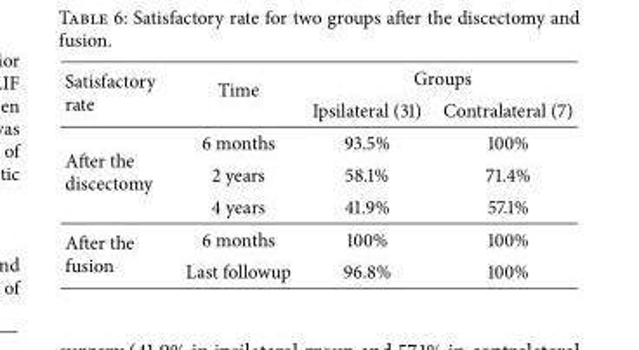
<table><thead><tr><td rowspan="2">Satisfactory rate</td><td rowspan="2">Time</td><td colspan="2">Groups</td></tr><tr><td>Ipsilateral (31)</td><td>Contralateral (7)</td></tr></thead><tbody><tr><td rowspan="3">After the discectomy</td><td>6 months</td><td>93.5%</td><td>100%</td></tr><tr><td>2 years</td><td>58.1%</td><td>71.4%</td></tr><tr><td>4 years</td><td>41.9%</td><td>57.1%</td></tr><tr><td rowspan="2">After the fusion</td><td>6 months</td><td>100%</td><td>100%</td></tr><tr><td>Last followup</td><td>96.8%</td><td>100%</td></tr></tbody></table>